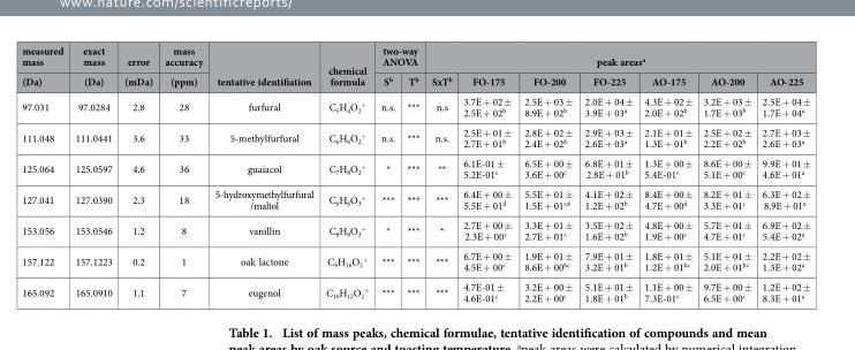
<table><thead><tr><td rowspan="2">measured mass (Da)</td><td rowspan="2">exact mass (Da)</td><td rowspan="2">error (mDa)</td><td rowspan="2">mass accuracy (ppm)</td><td rowspan="2">tentative identifiation</td><td rowspan="2">chemical formula</td><td colspan="2">two-way ANOVA</td><td colspan="7">peak areas<sup>a</sup></td></tr><tr><td>S<sup>b</sup></td><td>T<sup>b</sup></td><td>SxT<sup>b</sup></td><td>FO-175</td><td>FO-200</td><td>FO-225</td><td>AO-175</td><td>AO-200</td><td>AO-225</td></tr></thead><tbody><tr><td>97.031</td><td>97.0284</td><td>2.8</td><td>28</td><td>furfural</td><td>C<sub>5</sub>H<sub>4</sub>O<sub>2</sub> <sup>+</sup></td><td>n.s.</td><td>***</td><td>n.s</td><td>3.7E + 02 ± 2.5E + 02<sup>b</sup></td><td>2.5E + 03 ± 8.9E + 02<sup>b</sup></td><td>2.0E + 04 ± 3.9E + 03<sup>a</sup></td><td>4.3E + 02 ± 2.0E + 02<sup>b</sup></td><td>3.2E + 03 ± 1.7E + 03<sup>b</sup></td><td>2.5E + 04 ± 1.7E + 04<sup>a</sup></td></tr><tr><td>111.048</td><td>111.0441</td><td>3.6</td><td>33</td><td>5-methylfurfural</td><td>C<sub>6</sub>H<sub>6</sub>O<sub>2</sub> <sup>+</sup></td><td>n.s.</td><td>***</td><td>n.s.</td><td>2.5E + 01 ± 2.7E + 01<sup>b</sup></td><td>2.8E + 02 ± 2.4E + 02<sup>b</sup></td><td>2.9E + 03 ± 2.6E + 03<sup>a</sup></td><td>2.1E + 01 ± 1.3E + 01<sup>b</sup></td><td>2.5E + 02 ± 2.2E + 02<sup>b</sup></td><td>2.7E + 03 ± 2.6E + 03<sup>a</sup></td></tr><tr><td>125.064</td><td>125.0597</td><td>4.6</td><td>36</td><td>guaiacol</td><td>C<sub>7</sub>H<sub>8</sub>O<sub>2</sub> <sup>+</sup></td><td>*</td><td>***</td><td>**</td><td>6.1E-01 ± 5.2E-01<sup>c</sup></td><td>6.5E + 00 ± 3.6E + 00<sup>c</sup></td><td>6.8E + 01 ± 2.8E + 01<sup>b</sup></td><td>1.3E + 00 ± 5.4E-01<sup>c</sup></td><td>8.6E + 00 ± 5.1E + 00<sup>c</sup></td><td>9.9E + 01 ± 4.6E + 01<sup>a</sup></td></tr><tr><td>127.041</td><td>127.0390</td><td>2.3</td><td>18</td><td>5-hydroxymethylfurfural /maltol</td><td>C<sub>6</sub>H<sub>6</sub>O<sub>3</sub> <sup>+</sup></td><td>***</td><td>***</td><td>***</td><td>6.4E + 00 ± 5.5E + 01<sup>d</sup></td><td>5.5E + 01 ± 1.5E + 01<sup>cd</sup></td><td>4.1E + 02 ± 1.2E + 02<sup>b</sup></td><td>8.4E + 00 ± 4.7E + 00<sup>d</sup></td><td>8.2E + 01 ± 3.3E + 01<sup>c</sup></td><td>6.3E + 02 ± 8.9E + 01<sup>a</sup></td></tr><tr><td>153.056</td><td>153.0546</td><td>1.2</td><td>8</td><td>vanillin</td><td>C<sub>8</sub>H<sub>8</sub>O<sub>3</sub> <sup>+</sup></td><td>*</td><td>***</td><td>*</td><td>2.7E + 00 ± 2.3E + 00<sup>c</sup></td><td>3.3E + 01 ± 2.7E + 01<sup>c</sup></td><td>3.5E + 02 ± 1.6E + 02<sup>b</sup></td><td>4.8E + 00 ± 1.9E + 00<sup>c</sup></td><td>5.7E + 01 ± 4.7E + 01<sup>c</sup></td><td>6.9E + 02 ± 5.4E + 02<sup>a</sup></td></tr><tr><td>157.122</td><td>157.1223</td><td>0.2</td><td>1</td><td>oak lactone</td><td>C<sub>9</sub>H<sub>16</sub>O<sub>2</sub> <sup>+</sup></td><td>***</td><td>***</td><td>***</td><td>6.7E + 00 ± 4.5E + 00<sup>c</sup></td><td>1.9E + 01 ± 8.6E + 00<sup>bc</sup></td><td>7.9E + 01 ± 3.2E + 01<sup>b</sup></td><td>1.8E + 01 ± 1.2E + 01<sup>bc</sup></td><td>5.1E + 01 ± 2.0E + 01<sup>bc</sup></td><td>2.2E + 02 ± 1.3E + 02<sup>a</sup></td></tr><tr><td>165.092</td><td>165.0910</td><td>1.1</td><td>7</td><td>eugenol</td><td>C<sub>10</sub>H<sub>12</sub>O<sub>2</sub> <sup>+</sup></td><td>***</td><td>***</td><td>***</td><td>4.7E-01 ± 4.6E-01<sup>c</sup></td><td>3.2E + 00 ± 2.2E + 00<sup>c</sup></td><td>5.1E + 01 ± 1.8E + 01<sup>b</sup></td><td>1.1E + 00 ± 7.3E-01<sup>c</sup></td><td>9.7E + 00 ± 6.5E + 00<sup>c</sup></td><td>1.2E + 02 ± 8.3E + 01<sup>a</sup></td></tr></tbody></table>